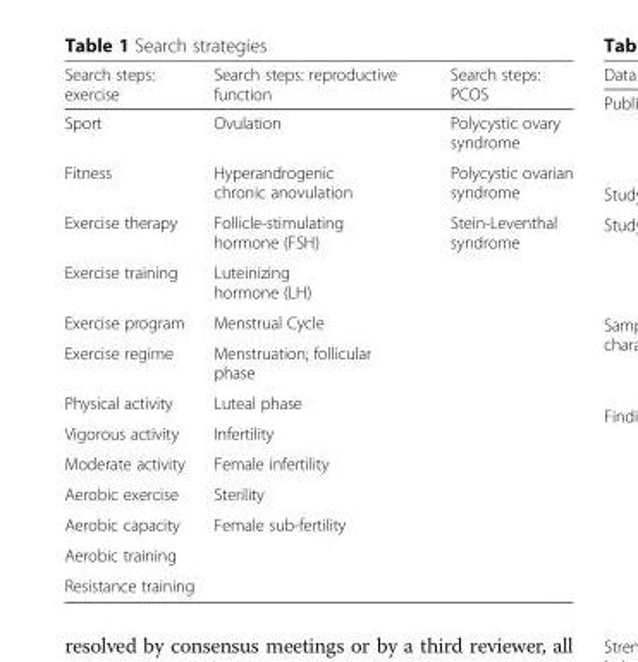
<table><thead><tr><td>Search steps: exercise</td><td>Search steps: reproductive function</td><td>Search steps: PCOS</td></tr></thead><tbody><tr><td>Sport</td><td>Ovulation</td><td>Polycystic ovary syndrome</td></tr><tr><td>Fitness</td><td>Hyperandrogenic chronic anovulation</td><td>Polycystic ovarian syndrome</td></tr><tr><td>Exercise therapy</td><td>Follicle-stimulating hormone (FSH)</td><td>Stein-Leventhal syndrome</td></tr><tr><td>Exercise training</td><td>Luteinizing hormone (LH)</td><td></td></tr><tr><td>Exercise program</td><td>Menstrual Cycle</td><td></td></tr><tr><td>Exercise regime</td><td>Menstruation; follicular phase</td><td></td></tr><tr><td>Physical activity</td><td>Luteal phase</td><td></td></tr><tr><td>Vigorous activity</td><td>Infertility</td><td></td></tr><tr><td>Moderate activity</td><td>Female infertility</td><td></td></tr><tr><td>Aerobic exercise</td><td>Sterility</td><td></td></tr><tr><td>Aerobic capacity</td><td>Female sub-fertility</td><td></td></tr><tr><td colspan="3">Aerobic training</td></tr><tr><td>Resistance training</td><td></td><td></td></tr></tbody></table>